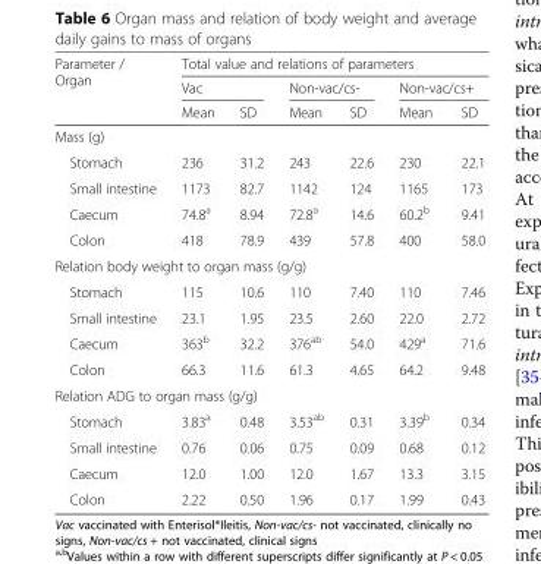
<table><thead><tr><td rowspan="3">Parameter / Organ</td><td colspan="6">Total value and relations of parameters</td></tr><tr><td colspan="2">Vac</td><td colspan="2">Non-vac/cs-</td><td colspan="2">Non-vac/cs+</td></tr><tr><td>Mean</td><td>SD</td><td>Mean</td><td>SD</td><td>Mean</td><td>SD</td></tr></thead><tbody><tr><td colspan="7">Mass (g)</td></tr><tr><td>Stomach</td><td>236</td><td>31.2</td><td>243</td><td>22.6</td><td>230</td><td>22.1</td></tr><tr><td>Small intestine</td><td>1173</td><td>82.7</td><td>1142</td><td>124</td><td>1165</td><td>173</td></tr><tr><td>Caecum</td><td>74.8<sup>a</sup></td><td>8.94</td><td>72.8<sup>a</sup></td><td>14.6</td><td>60.2<sup>b</sup></td><td>9.41</td></tr><tr><td>Colon</td><td>418</td><td>78.9</td><td>439</td><td>57.8</td><td>400</td><td>58.0</td></tr><tr><td colspan="7">Relation body weight to organ mass (g/g)</td></tr><tr><td>Stomach</td><td>115</td><td>10.6</td><td>110</td><td>7.40</td><td>110</td><td>7.46</td></tr><tr><td>Small intestine</td><td>23.1</td><td>1.95</td><td>23.5</td><td>2.60</td><td>22.0</td><td>2.72</td></tr><tr><td>Caecum</td><td>363<sup>b</sup></td><td>32.2</td><td>376<sup>ab</sup></td><td>54.0</td><td>429<sup>a</sup></td><td>71.6</td></tr><tr><td>Colon</td><td>66.3</td><td>11.6</td><td>61.3</td><td>4.65</td><td>64.2</td><td>9.48</td></tr><tr><td colspan="7">Relation ADG to organ mass (g/g)</td></tr><tr><td>Stomach</td><td>3.83<sup>a</sup></td><td>0.48</td><td>3.53<sup>ab</sup></td><td>0.31</td><td>3.39<sup>b</sup></td><td>0.34</td></tr><tr><td>Small intestine</td><td>0.76</td><td>0.06</td><td>0.75</td><td>0.09</td><td>0.68</td><td>0.12</td></tr><tr><td>Caecum</td><td>12.0</td><td>1.00</td><td>12.0</td><td>1.67</td><td>13.3</td><td>3.15</td></tr><tr><td>Colon</td><td>2.22</td><td>0.50</td><td>1.96</td><td>0.17</td><td>1.99</td><td>0.43</td></tr></tbody></table>